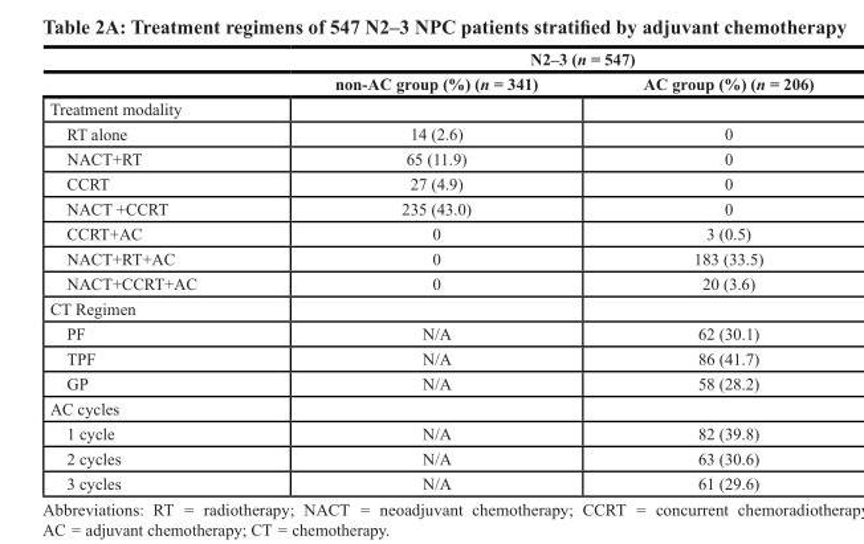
<table><thead><tr><td rowspan="2"></td><td colspan="2">N2–3 (n = 547)</td></tr><tr><td>non-AC group (%) (n = 341)</td><td>AC group (%) (n = 206)</td></tr></thead><tbody><tr><td colspan="3">Treatment modality</td></tr><tr><td>RT alone</td><td>14 (2.6)</td><td>0</td></tr><tr><td>NACT+RT</td><td>65 (11.9)</td><td>0</td></tr><tr><td>CCRT</td><td>27 (4.9)</td><td>0</td></tr><tr><td>NACT +CCRT</td><td>235 (43.0)</td><td>0</td></tr><tr><td>CCRT+AC</td><td>0</td><td>3 (0.5)</td></tr><tr><td>NACT+RT+AC</td><td>0</td><td>183 (33.5)</td></tr><tr><td>NACT+CCRT+AC</td><td>0</td><td>20 (3.6)</td></tr><tr><td colspan="3">CT Regimen</td></tr><tr><td>PF</td><td>N/A</td><td>62 (30.1)</td></tr><tr><td>TPF</td><td>N/A</td><td>86 (41.7)</td></tr><tr><td>GP</td><td>N/A</td><td>58 (28.2)</td></tr><tr><td colspan="3">AC cycles</td></tr><tr><td>1 cycle</td><td>N/A</td><td>82 (39.8)</td></tr><tr><td>2 cycles</td><td>N/A</td><td>63 (30.6)</td></tr><tr><td>3 cycles</td><td>N/A</td><td>61 (29.6)</td></tr></tbody></table>